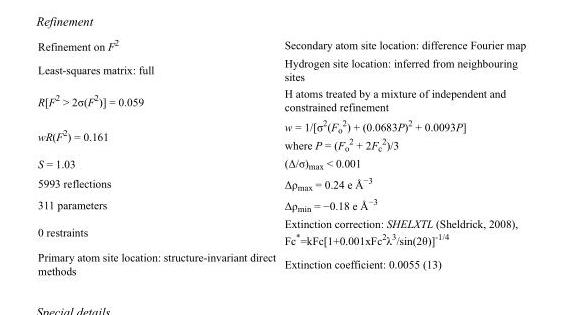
<table><tbody><tr><td>Refinement on F<sup>2</sup></td><td>Secondary atom site location: difference Fourier map</td></tr><tr><td>Least-squares matrix: full</td><td>Hydrogen site location: inferred from neighbouring sites</td></tr><tr><td>R[F<sup>2</sup> &gt; 2σ(F<sup>2</sup>)] = 0.059</td><td>H atoms treated by a mixture of independent and constrained refinement</td></tr><tr><td>wR(F<sup>2</sup>) = 0.161</td><td>w = 1/[σ<sup>2</sup>(F<sub>o</sub> <sup>2</sup>) + (0.0683P)<sup>2</sup> + 0.0093P] where P = (F<sub>o</sub> <sup>2</sup> + 2F<sub>c</sub> <sup>2</sup>)/3</td></tr><tr><td>S = 1.03</td><td>(Δ/σ)<sub>max</sub> &lt; 0.001</td></tr><tr><td>5993 reflections</td><td>Δρ<sub>max</sub> = 0.24 e Å<sup>−3</sup></td></tr><tr><td>311 parameters</td><td>Δρ<sub>min</sub> = −0.18 e Å<sup>−3</sup></td></tr><tr><td>0 restraints</td><td>Extinction correction: SHELXTL (Sheldrick, 2008), Fc*=kFc[1+0.001xFc<sup>2</sup>λ<sup>3</sup>/sin(2θ)]<sup>-1/4</sup></td></tr><tr><td>Primary atom site location: structure-invariant direct methods</td><td>Extinction coefficient: 0.0055 (13)</td></tr></tbody></table>